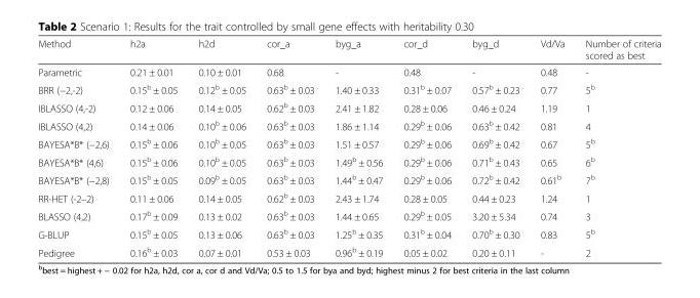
<table><thead><tr><td>Method</td><td>h2a</td><td>h2d</td><td>cor_a</td><td>byg_a</td><td>cor_d</td><td>byg_d</td><td>Vd/Va</td><td>Number of criteria scored as best</td></tr></thead><tbody><tr><td>Parametric</td><td>0.21 ± 0.01</td><td>0.10 ± 0.01</td><td>0.68</td><td>-</td><td>0.48</td><td>-</td><td>0.48</td><td>-</td></tr><tr><td>BRR (−2,-2)</td><td>0.15<sup>b</sup> ± 0.05</td><td>0.12<sup>b</sup> ± 0.05</td><td>0.63<sup>b</sup> ± 0.03</td><td>1.40 ± 0.33</td><td>0.31<sup>b</sup> ± 0.07</td><td>0.57<sup>b</sup> ± 0.23</td><td>0.77</td><td>5<sup>b</sup></td></tr><tr><td>IBLASSO (4,-2)</td><td>0.12 ± 0.06</td><td>0.14 ± 0.05</td><td>0.62<sup>b</sup> ± 0.03</td><td>2.41 ± 1.82</td><td>0.28 ± 0.06</td><td>0.46 ± 0.24</td><td>1.19</td><td>1</td></tr><tr><td>IBLASSO (4,2)</td><td>0.14 ± 0.06</td><td>0.10<sup>b</sup> ± 0.06</td><td>0.63<sup>b</sup> ± 0.03</td><td>1.86 ± 1.14</td><td>0.29<sup>b</sup> ± 0.06</td><td>0.63<sup>b</sup> ± 0.42</td><td>0.81</td><td>4</td></tr><tr><td>BAYESA*B* (−2,6)</td><td>0.15<sup>b</sup> ± 0.06</td><td>0.10<sup>b</sup> ± 0.05</td><td>0.63<sup>b</sup> ± 0.03</td><td>1.51 ± 0.57</td><td>0.29<sup>b</sup> ± 0.06</td><td>0.69<sup>b</sup> ± 0.42</td><td>0.67</td><td>5<sup>b</sup></td></tr><tr><td>BAYESA*B* (4,6)</td><td>0.15<sup>b</sup> ± 0.06</td><td>0.10<sup>b</sup> ± 0.05</td><td>0.63<sup>b</sup> ± 0.03</td><td>1.49<sup>b</sup> ± 0.56</td><td>0.29<sup>b</sup> ± 0.06</td><td>0.71<sup>b</sup> ± 0.43</td><td>0.65</td><td>6<sup>b</sup></td></tr><tr><td>BAYESA*B* (−2,8)</td><td>0.15<sup>b</sup> ± 0.05</td><td>0.09<sup>b</sup> ± 0.05</td><td>0.63<sup>b</sup> ± 0.03</td><td>1.44<sup>b</sup> ± 0.47</td><td>0.29<sup>b</sup> ± 0.06</td><td>0.72<sup>b</sup> ± 0.42</td><td>0.61<sup>b</sup></td><td>7<sup>b</sup></td></tr><tr><td>RR-HET (-2–2)</td><td>0.11 ± 0.06</td><td>0.14 ± 0.05</td><td>0.62<sup>b</sup> ± 0.03</td><td>2.43 ± 1.74</td><td>0.28 ± 0.05</td><td>0.44 ± 0.23</td><td>1.24</td><td>1</td></tr><tr><td>BLASSO (4,2)</td><td>0.17<sup>b</sup> ± 0.09</td><td>0.13 ± 0.02</td><td>0.63<sup>b</sup> ± 0.03</td><td>1.44 ± 0.65</td><td>0.29<sup>b</sup> ± 0.05</td><td>3.20 ± 5.34</td><td>0.74</td><td>3</td></tr><tr><td>G-BLUP</td><td>0.15<sup>b</sup> ± 0.05</td><td>0.13 ± 0.06</td><td>0.63<sup>b</sup> ± 0.03</td><td>1.25<sup>b</sup> ± 0.35</td><td>0.31<sup>b</sup> ± 0.04</td><td>0.70<sup>b</sup> ± 0.30</td><td>0.83</td><td>5<sup>b</sup></td></tr><tr><td>Pedigree</td><td>0.16<sup>b</sup> ± 0.03</td><td>0.07 ± 0.01</td><td>0.53 ± 0.03</td><td>0.96<sup>b</sup> ± 0.19</td><td>0.05 ± 0.02</td><td>0.20 ± 0.11</td><td>-</td><td>2</td></tr></tbody></table>